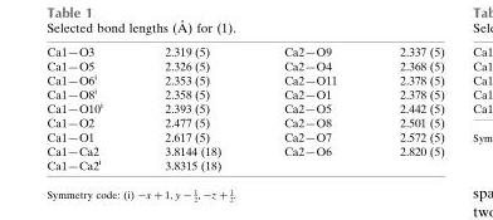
<table><tbody><tr><td>Ca1—O3</td><td>2.319 (5)</td><td>Ca2—O9</td><td>2.337 (5)</td></tr><tr><td>Ca1—O5</td><td>2.326 (5)</td><td>Ca2—O4</td><td>2.368 (5)</td></tr><tr><td>Ca1—O6<sup>i</sup></td><td>2.353 (5)</td><td>Ca2—O11</td><td>2.378 (5)</td></tr><tr><td>Ca1—O8<sup>i</sup></td><td>2.358 (5)</td><td>Ca2—O1</td><td>2.378 (5)</td></tr><tr><td>Ca1—O10<sup>i</sup></td><td>2.393 (5)</td><td>Ca2—O5</td><td>2.442 (5)</td></tr><tr><td>Ca1—O2</td><td>2.477 (5)</td><td>Ca2—O8</td><td>2.501 (5)</td></tr><tr><td>Ca1—O1</td><td>2.617 (5)</td><td>Ca2—O7</td><td>2.572 (5)</td></tr><tr><td>Ca1—Ca2</td><td>3.8144 (18)</td><td>Ca2—O6</td><td>2.820 (5)</td></tr><tr><td>Ca1—Ca2<sup>i</sup></td><td>3.8315 (18)</td><td></td><td></td></tr></tbody></table>